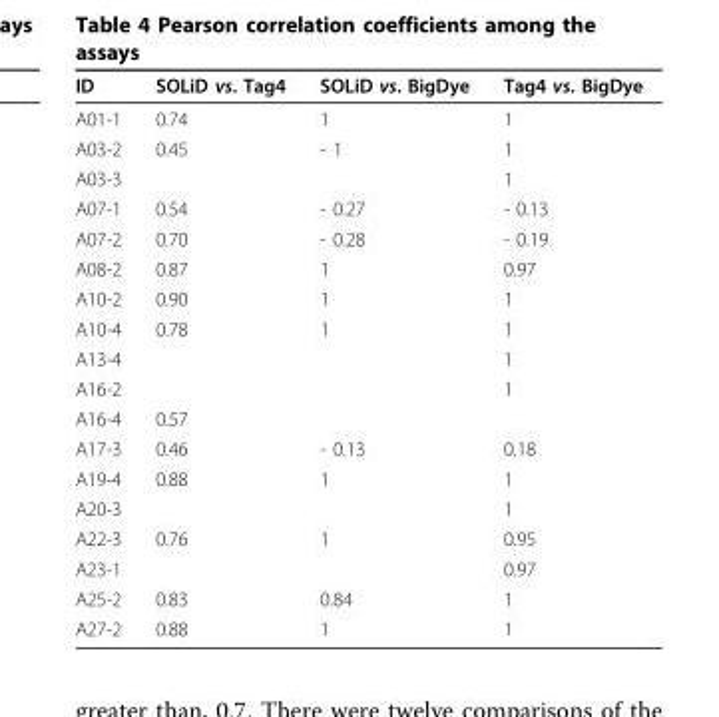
<table><thead><tr><td>ID</td><td>SOLiD vs. Tag4</td><td>SOLiD vs. BigDye</td><td>Tag4 vs. BigDye</td></tr></thead><tbody><tr><td>A01-1</td><td>0.74</td><td>1</td><td>1</td></tr><tr><td>A03-2</td><td>0.45</td><td>- 1</td><td>1</td></tr><tr><td>A03-3</td><td></td><td></td><td>1</td></tr><tr><td>A07-1</td><td>0.54</td><td>- 0.27</td><td>- 0.13</td></tr><tr><td>A07-2</td><td>0.70</td><td>- 0.28</td><td>- 0.19</td></tr><tr><td>A08-2</td><td>0.87</td><td>1</td><td>0.97</td></tr><tr><td>A10-2</td><td>0.90</td><td>1</td><td>1</td></tr><tr><td>A10-4</td><td>0.78</td><td>1</td><td>1</td></tr><tr><td>A13-4</td><td></td><td></td><td>1</td></tr><tr><td>A16-2</td><td></td><td></td><td>1</td></tr><tr><td>A16-4</td><td>0.57</td><td></td><td></td></tr><tr><td>A17-3</td><td>0.46</td><td>- 0.13</td><td>0.18</td></tr><tr><td>A19-4</td><td>0.88</td><td>1</td><td>1</td></tr><tr><td>A20-3</td><td></td><td></td><td>1</td></tr><tr><td>A22-3</td><td>0.76</td><td>1</td><td>0.95</td></tr><tr><td>A23-1</td><td></td><td></td><td>0.97</td></tr><tr><td>A25-2</td><td>0.83</td><td>0.84</td><td>1</td></tr><tr><td>A27-2</td><td>0.88</td><td>1</td><td>1</td></tr></tbody></table>